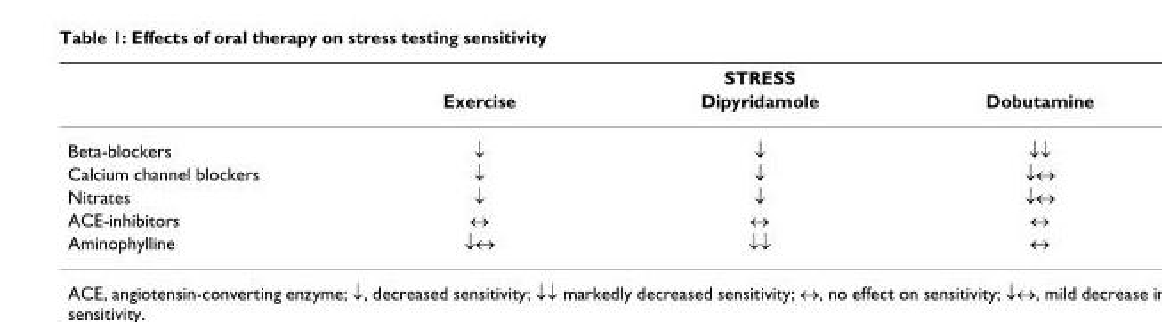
<table><thead><tr><td rowspan="2"></td><td colspan="3">STRESS</td></tr><tr><td>Exercise</td><td>Dipyridamole</td><td>Dobutamine</td></tr></thead><tbody><tr><td>Beta-blockers</td><td>↓</td><td>↓</td><td>↓↓</td></tr><tr><td>Calcium channel blockers</td><td>↓</td><td>↓</td><td>↓↔</td></tr><tr><td>Nitrates</td><td>↓</td><td>↓</td><td>↓↔</td></tr><tr><td>ACE-inhibitors</td><td>↔</td><td>↔</td><td>↔</td></tr><tr><td>Aminophylline</td><td>↓↔</td><td>↓↓</td><td>↔</td></tr></tbody></table>